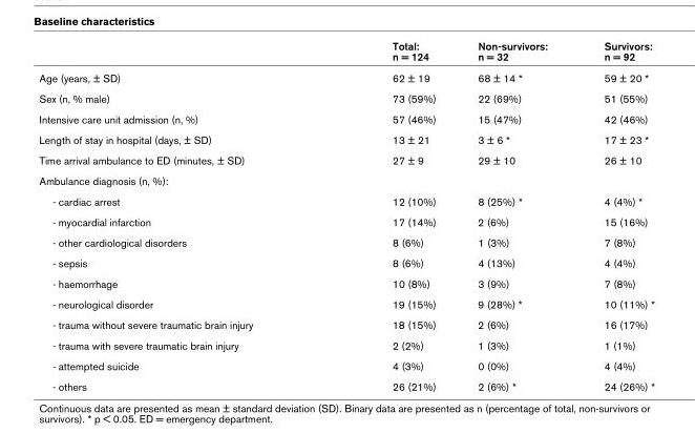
<table><thead><tr><td></td><td>Total: n = 124</td><td>Non-survivors: n = 32</td><td>Survivors: n = 92</td></tr></thead><tbody><tr><td>Age (years, ± SD)</td><td>62 ± 19</td><td>68 ± 14 *</td><td>59 ± 20 *</td></tr><tr><td>Sex (n, % male)</td><td>73 (59%)</td><td>22 (69%)</td><td>51 (55%)</td></tr><tr><td>Intensive care unit admission (n, %)</td><td>57 (46%)</td><td>15 (47%)</td><td>42 (46%)</td></tr><tr><td>Length of stay in hospital (days, ± SD)</td><td>13 ± 21</td><td>3 ± 6 *</td><td>17 ± 23 *</td></tr><tr><td>Time arrival ambulance to ED (minutes, ± SD)</td><td>27 ± 9</td><td>29 ± 10</td><td>26 ± 10</td></tr><tr><td colspan="4">Ambulance diagnosis (n, %):</td></tr><tr><td>- cardiac arrest</td><td>12 (10%)</td><td>8 (25%) *</td><td>4 (4%) *</td></tr><tr><td>- myocardial infarction</td><td>17 (14%)</td><td>2 (6%)</td><td>15 (16%)</td></tr><tr><td>- other cardiological disorders</td><td>8 (6%)</td><td>1 (3%)</td><td>7 (8%)</td></tr><tr><td>- sepsis</td><td>8 (6%)</td><td>4 (13%)</td><td>4 (4%)</td></tr><tr><td>- haemorrhage</td><td>10 (8%)</td><td>3 (9%)</td><td>7 (8%)</td></tr><tr><td>- neurological disorder</td><td>19 (15%)</td><td>9 (28%) *</td><td>10 (11%) *</td></tr><tr><td>- trauma without severe traumatic brain injury</td><td>18 (15%)</td><td>2 (6%)</td><td>16 (17%)</td></tr><tr><td>- trauma with severe traumatic brain injury</td><td>2 (2%)</td><td>1 (3%)</td><td>1 (1%)</td></tr><tr><td>- attempted suicide</td><td>4 (3%)</td><td>0 (0%)</td><td>4 (4%)</td></tr><tr><td>- others</td><td>26 (21%)</td><td>2 (6%) *</td><td>24 (26%) *</td></tr></tbody></table>